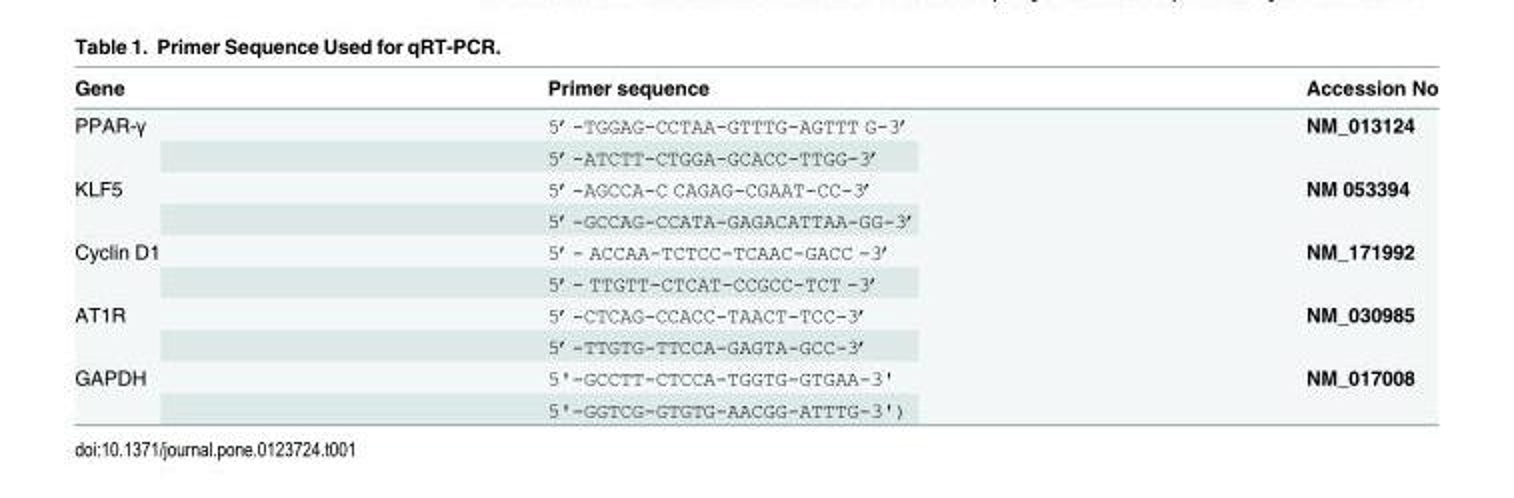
<table><thead><tr><td>Gene</td><td>Primer sequence</td><td>Accession No</td></tr></thead><tbody><tr><td rowspan="2">PPAR-γ</td><td>5’-TGGAG-CCTAA-GTTTG-AGTTT G-3’</td><td rowspan="2">NM_013124</td></tr><tr><td>5’-ATCTT-CTGGA-GCACC-TTGG-3’</td></tr><tr><td rowspan="2">KLF5</td><td>5’-AGCCA-C CAGAG-CGAAT-CC-3’</td><td rowspan="2">NM 053394</td></tr><tr><td>5’-GCCAG-CCATA-GAGACATTAA-GG-3’</td></tr><tr><td rowspan="2">Cyclin D1</td><td>5’- ACCAA-TCTCC-TCAAC-GACC -3’</td><td rowspan="2">NM_171992</td></tr><tr><td>5’- TTGTT-CTCAT-CCGCC-TCT -3’</td></tr><tr><td rowspan="2">AT1R</td><td>5’-CTCAG-CCACC-TAACT-TCC-3’</td><td rowspan="2">NM_030985</td></tr><tr><td>5’-TTGTG-TTCCA-GAGTA-GCC-3’</td></tr><tr><td rowspan="2">GAPDH</td><td>5&#x27;-GCCTT-CTCCA-TGGTG-GTGAA-3&#x27;</td><td rowspan="2">NM_017008</td></tr><tr><td>5&#x27;-GGTCG-GTGTG-AACGG-ATTTG-3&#x27;)</td></tr></tbody></table>